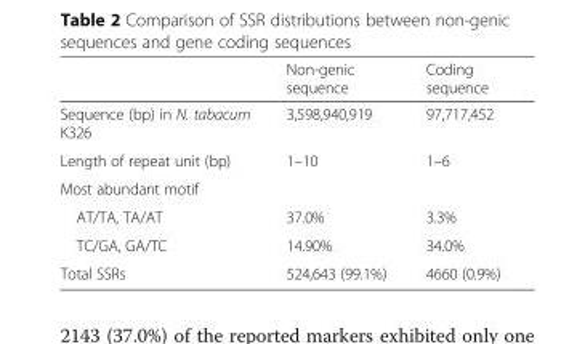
<table><thead><tr><td></td><td>Non-genic sequence</td><td>Coding sequence</td></tr></thead><tbody><tr><td>Sequence (bp) in N. tabacum K326</td><td>3,598,940,919</td><td>97,717,452</td></tr><tr><td>Length of repeat unit (bp)</td><td>1–10</td><td>1–6</td></tr><tr><td colspan="3">Most abundant motif</td></tr><tr><td>AT/TA, TA/AT</td><td>37.0%</td><td>3.3%</td></tr><tr><td>TC/GA, GA/TC</td><td>14.90%</td><td>34.0%</td></tr><tr><td>Total SSRs</td><td>524,643 (99.1%)</td><td>4660 (0.9%)</td></tr></tbody></table>